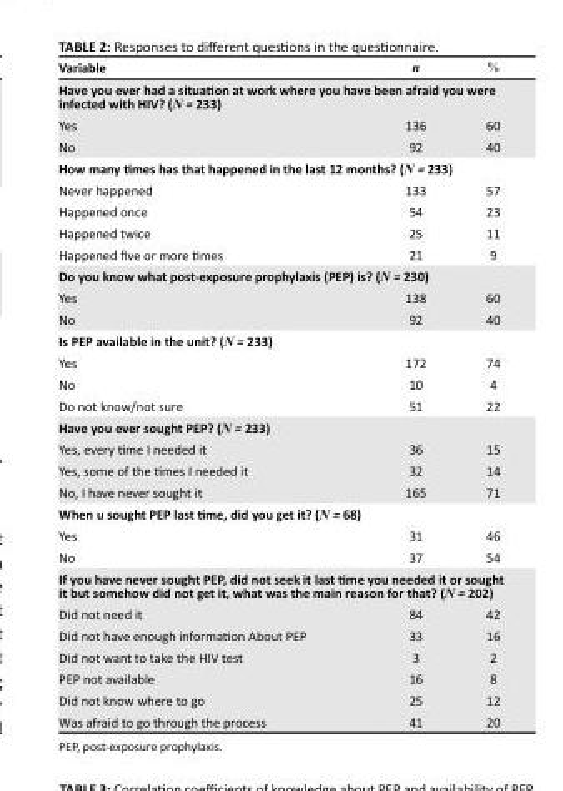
<table><thead><tr><td>Variable</td><td>n</td><td>%</td></tr></thead><tbody><tr><td colspan="3">Have you ever had a situation at work where you have been afraid you were infected with HIV? (N = 233)</td></tr><tr><td>Yes</td><td>136</td><td>60</td></tr><tr><td>No</td><td>92</td><td>40</td></tr><tr><td colspan="3">How many times has that happened in the last 12 months? (N = 233)</td></tr><tr><td>Never happened</td><td>133</td><td>57</td></tr><tr><td>Happened once</td><td>54</td><td>23</td></tr><tr><td>Happened twice</td><td>25</td><td>11</td></tr><tr><td>Happened five or more times</td><td>21</td><td>9</td></tr><tr><td colspan="3">Do you know what post-exposure prophylaxis (PEP) is? (N = 230)</td></tr><tr><td>Yes</td><td>138</td><td>60</td></tr><tr><td>No</td><td>92</td><td>40</td></tr><tr><td colspan="3">Is PEP available in the unit? (N = 233)</td></tr><tr><td>Yes</td><td>172</td><td>74</td></tr><tr><td>No</td><td>10</td><td>4</td></tr><tr><td>Do not know/not sure</td><td>51</td><td>22</td></tr><tr><td colspan="3">Have you ever sought PEP? (N = 233)</td></tr><tr><td>Yes, every time I needed it</td><td>36</td><td>15</td></tr><tr><td>Yes, some of the times I needed it</td><td>32</td><td>14</td></tr><tr><td>No, I have never sought it</td><td>165</td><td>71</td></tr><tr><td colspan="3">When u sought PEP last time, did you get it? (N = 68)</td></tr><tr><td>Yes</td><td>31</td><td>46</td></tr><tr><td>No</td><td>37</td><td>54</td></tr><tr><td colspan="3">If you have never sought PEP, did not seek it last time you needed it or sought it but somehow did not get it, what was the main reason for that? (N = 202)</td></tr><tr><td>Did not need it</td><td>84</td><td>42</td></tr><tr><td>Did not have enough information About PEP</td><td>33</td><td>16</td></tr><tr><td>Did not want to take the HIV test</td><td>3</td><td>2</td></tr><tr><td>PEP not available</td><td>16</td><td>8</td></tr><tr><td>Did not know where to go</td><td>25</td><td>12</td></tr><tr><td>Was afraid to go through the process</td><td>41</td><td>20</td></tr></tbody></table>